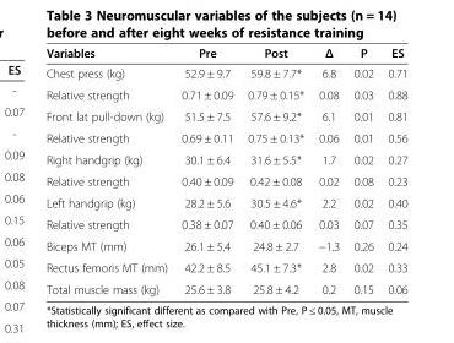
<table><thead><tr><td>Variables</td><td>Pre</td><td>Post</td><td>Δ</td><td>P</td><td>ES</td></tr></thead><tbody><tr><td>Chest press (kg)</td><td>52.9 ± 9.7</td><td>59.8 ± 7.7*</td><td>6.8</td><td>0.02</td><td>0.71</td></tr><tr><td>Relative strength</td><td>0.71 ± 0.09</td><td>0.79 ± 0.15*</td><td>0.08</td><td>0.03</td><td>0.88</td></tr><tr><td>Front lat pull-down (kg)</td><td>51.5 ± 7.5</td><td>57.6 ± 9.2*</td><td>6.1</td><td>0.01</td><td>0.81</td></tr><tr><td>Relative strength</td><td>0.69 ± 0.11</td><td>0.75 ± 0.13*</td><td>0.06</td><td>0.01</td><td>0.56</td></tr><tr><td>Right handgrip (kg)</td><td>30.1 ± 6.4</td><td>31.6 ± 5.5*</td><td>1.7</td><td>0.02</td><td>0.27</td></tr><tr><td>Relative strength</td><td>0.40 ± 0.09</td><td>0.42 ± 0.08</td><td>0.02</td><td>0.08</td><td>0.23</td></tr><tr><td>Left handgrip (kg)</td><td>28.2 ± 5.6</td><td>30.5 ± 4.6*</td><td>2.2</td><td>0.02</td><td>0.40</td></tr><tr><td>Relative strength</td><td>0.38 ± 0.07</td><td>0.40 ± 0.06</td><td>0.03</td><td>0.07</td><td>0.35</td></tr><tr><td>Biceps MT (mm)</td><td>26.1 ± 5.4</td><td>24.8 ± 2.7</td><td>−1.3</td><td>0.26</td><td>0.24</td></tr><tr><td>Rectus femoris MT (mm)</td><td>42.2 ± 8.5</td><td>45.1 ± 7.3*</td><td>2.8</td><td>0.02</td><td>0.33</td></tr><tr><td>Total muscle mass (kg)</td><td>25.6 ± 3.8</td><td>25.8 ± 4.2</td><td>0.2</td><td>0.15</td><td>0.06</td></tr></tbody></table>